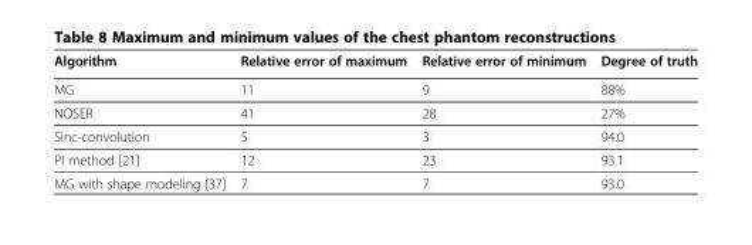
<table><thead><tr><td>Algorithm</td><td>Relative error of maximum</td><td>Relative error of minimum</td><td>Degree of truth</td></tr></thead><tbody><tr><td>MG</td><td>11</td><td>9</td><td>88%</td></tr><tr><td>NOSER</td><td>41</td><td>28</td><td>27%</td></tr><tr><td>Sinc-convolution</td><td>5</td><td>3</td><td>94.0</td></tr><tr><td>PI method [21]</td><td>12</td><td>23</td><td>93.1</td></tr><tr><td>MG with shape modeling [37]</td><td>7</td><td>7</td><td>93.0</td></tr></tbody></table>